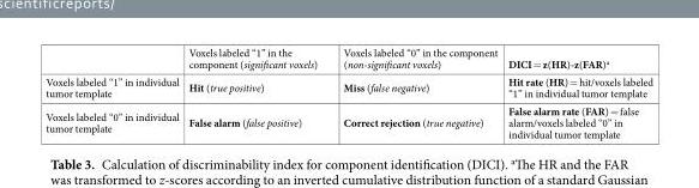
<table><thead><tr><td></td><td>Voxels labeled “1” in the component (significant voxels)</td><td>Voxels labeled “0” in the component (non-significant voxels)</td><td>DICI = z(HR)-z(FAR)<sup>a</sup></td></tr></thead><tbody><tr><td>Voxels labeled “1” in individual tumor template</td><td>Hit (true positive)</td><td>Miss (false negative)</td><td>Hit rate (HR) = hit/voxels labeled “1” in individual tumor template</td></tr><tr><td>Voxels labeled “0” in individual tumor template</td><td>False alarm (false positive)</td><td>Correct rejection (true negative)</td><td>False alarm rate (FAR) = false alarm/voxels labeled “0” in individual tumor template</td></tr></tbody></table>